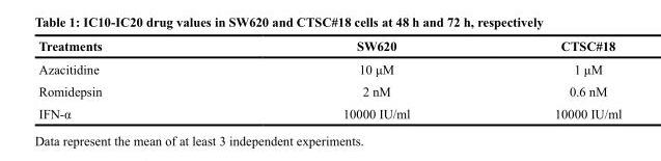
<table><thead><tr><td>Treatments</td><td>SW620</td><td>CTSC#18</td></tr></thead><tbody><tr><td>Azacitidine</td><td>10 μM</td><td>1 μM</td></tr><tr><td>Romidepsin</td><td>2 nM</td><td>0.6 nM</td></tr><tr><td>IFN-α</td><td>10000 IU/ml</td><td>10000 IU/ml</td></tr></tbody></table>